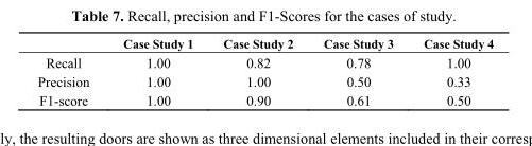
<table><thead><tr><td></td><td>Case Study 1</td><td>Case Study 2</td><td>Case Study 3</td><td>Case Study 4</td></tr></thead><tbody><tr><td>Recall</td><td>1.00</td><td>0.82</td><td>0.78</td><td>1.00</td></tr><tr><td>Precision</td><td>1.00</td><td>1.00</td><td>0.50</td><td>0.33</td></tr><tr><td>F1-score</td><td>1.00</td><td>0.90</td><td>0.61</td><td>0.50</td></tr></tbody></table>